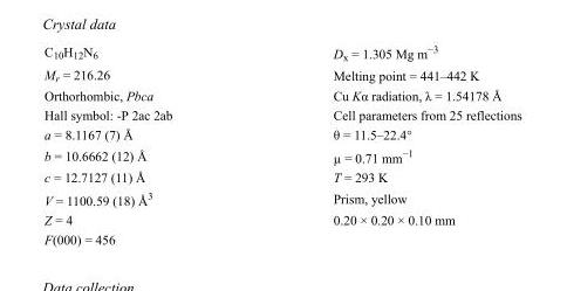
<table><tbody><tr><td>C<sub>10</sub>H<sub>12</sub>N<sub>6</sub></td><td>D<sub>x</sub> = 1.305 Mg m<sup>−3</sup></td></tr><tr><td>M<sub>r</sub> = 216.26</td><td>Melting point = 441–442 K</td></tr><tr><td>Orthorhombic, Pbca</td><td>Cu Kα radiation, λ = 1.54178 Å</td></tr><tr><td>Hall symbol: -P 2ac 2ab</td><td>Cell parameters from 25 reflections</td></tr><tr><td>a = 8.1167 (7) Å</td><td>θ = 11.5–22.4°</td></tr><tr><td>b = 10.6662 (12) Å</td><td>µ = 0.71 mm<sup>−1</sup></td></tr><tr><td>c = 12.7127 (11) Å</td><td>T = 293 K</td></tr><tr><td>V = 1100.59 (18) Å<sup>3</sup></td><td>Prism, yellow</td></tr><tr><td>Z = 4</td><td>0.20 × 0.20 × 0.10 mm</td></tr><tr><td>F(000) = 456</td><td></td></tr></tbody></table>